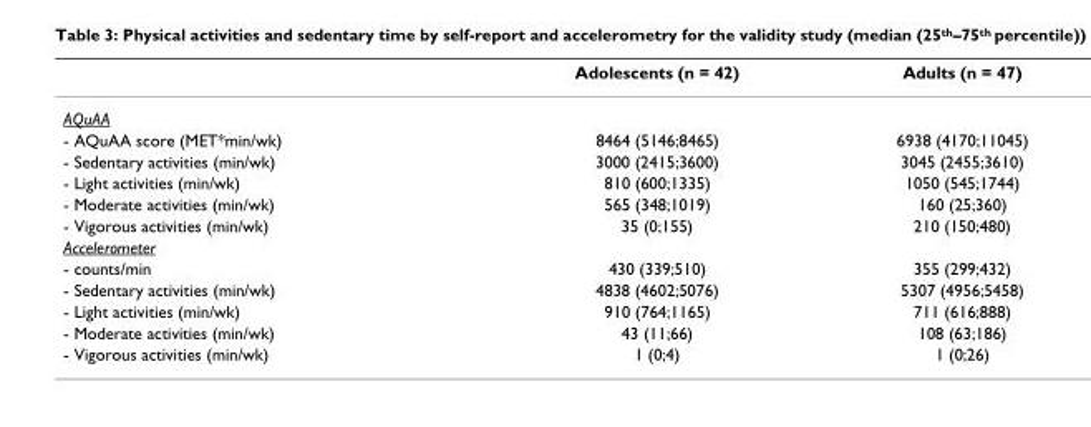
<table><thead><tr><td></td><td>Adolescents (n = 42)</td><td>Adults (n = 47)</td></tr></thead><tbody><tr><td colspan="3">AQuAA</td></tr><tr><td>- AQuAA score (MET*min/wk)</td><td>8464 (5146;8465)</td><td>6938 (4170;11045)</td></tr><tr><td>- Sedentary activities (min/wk)</td><td>3000 (2415;3600)</td><td>3045 (2455;3610)</td></tr><tr><td>- Light activities (min/wk)</td><td>810 (600;1335)</td><td>1050 (545;1744)</td></tr><tr><td>- Moderate activities (min/wk)</td><td>565 (348;1019)</td><td>160 (25;360)</td></tr><tr><td>- Vigorous activities (min/wk)</td><td>35 (0;155)</td><td>210 (150;480)</td></tr><tr><td colspan="3">Accelerometer</td></tr><tr><td>- counts/min</td><td>430 (339;510)</td><td>355 (299;432)</td></tr><tr><td>- Sedentary activities (min/wk)</td><td>4838 (4602;5076)</td><td>5307 (4956;5458)</td></tr><tr><td>- Light activities (min/wk)</td><td>910 (764;1165)</td><td>711 (616;888)</td></tr><tr><td>- Moderate activities (min/wk)</td><td>43 (11;66)</td><td>108 (63;186)</td></tr><tr><td>- Vigorous activities (min/wk)</td><td>1 (0;4)</td><td>1 (0;26)</td></tr></tbody></table>